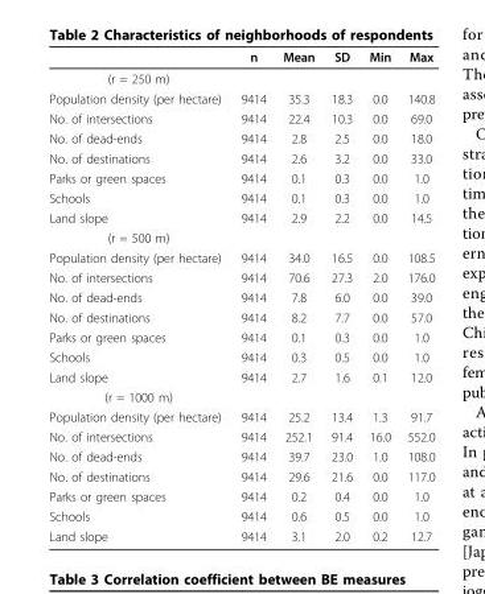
<table><thead><tr><td></td><td>n</td><td>Mean</td><td>SD</td><td>Min</td><td>Max</td></tr></thead><tbody><tr><td colspan="6">(r = 250 m)</td></tr><tr><td>Population density (per hectare)</td><td>9414</td><td>35.3</td><td>18.3</td><td>0.0</td><td>140.8</td></tr><tr><td>No. of intersections</td><td>9414</td><td>22.4</td><td>10.3</td><td>0.0</td><td>69.0</td></tr><tr><td>No. of dead-ends</td><td>9414</td><td>2.8</td><td>2.5</td><td>0.0</td><td>18.0</td></tr><tr><td>No. of destinations</td><td>9414</td><td>2.6</td><td>3.2</td><td>0.0</td><td>33.0</td></tr><tr><td>Parks or green spaces</td><td>9414</td><td>0.1</td><td>0.3</td><td>0.0</td><td>1.0</td></tr><tr><td>Schools</td><td>9414</td><td>0.1</td><td>0.3</td><td>0.0</td><td>1.0</td></tr><tr><td>Land slope</td><td>9414</td><td>2.9</td><td>2.2</td><td>0.0</td><td>14.5</td></tr><tr><td colspan="6">(r = 500 m)</td></tr><tr><td>Population density (per hectare)</td><td>9414</td><td>34.0</td><td>16.5</td><td>0.0</td><td>108.5</td></tr><tr><td>No. of intersections</td><td>9414</td><td>70.6</td><td>27.3</td><td>2.0</td><td>176.0</td></tr><tr><td>No. of dead-ends</td><td>9414</td><td>7.8</td><td>6.0</td><td>0.0</td><td>39.0</td></tr><tr><td>No. of destinations</td><td>9414</td><td>8.2</td><td>7.7</td><td>0.0</td><td>57.0</td></tr><tr><td>Parks or green spaces</td><td>9414</td><td>0.1</td><td>0.3</td><td>0.0</td><td>1.0</td></tr><tr><td>Schools</td><td>9414</td><td>0.3</td><td>0.5</td><td>0.0</td><td>1.0</td></tr><tr><td>Land slope</td><td>9414</td><td>2.7</td><td>1.6</td><td>0.1</td><td>12.0</td></tr><tr><td colspan="6">(r = 1000 m)</td></tr><tr><td>Population density (per hectare)</td><td>9414</td><td>25.2</td><td>13.4</td><td>1.3</td><td>91.7</td></tr><tr><td>No. of intersections</td><td>9414</td><td>252.1</td><td>91.4</td><td>16.0</td><td>552.0</td></tr><tr><td>No. of dead-ends</td><td>9414</td><td>39.7</td><td>23.0</td><td>1.0</td><td>108.0</td></tr><tr><td>No. of destinations</td><td>9414</td><td>29.6</td><td>21.6</td><td>0.0</td><td>117.0</td></tr><tr><td>Parks or green spaces</td><td>9414</td><td>0.2</td><td>0.4</td><td>0.0</td><td>1.0</td></tr><tr><td>Schools</td><td>9414</td><td>0.6</td><td>0.5</td><td>0.0</td><td>1.0</td></tr><tr><td>Land slope</td><td>9414</td><td>3.1</td><td>2.0</td><td>0.2</td><td>12.7</td></tr></tbody></table>